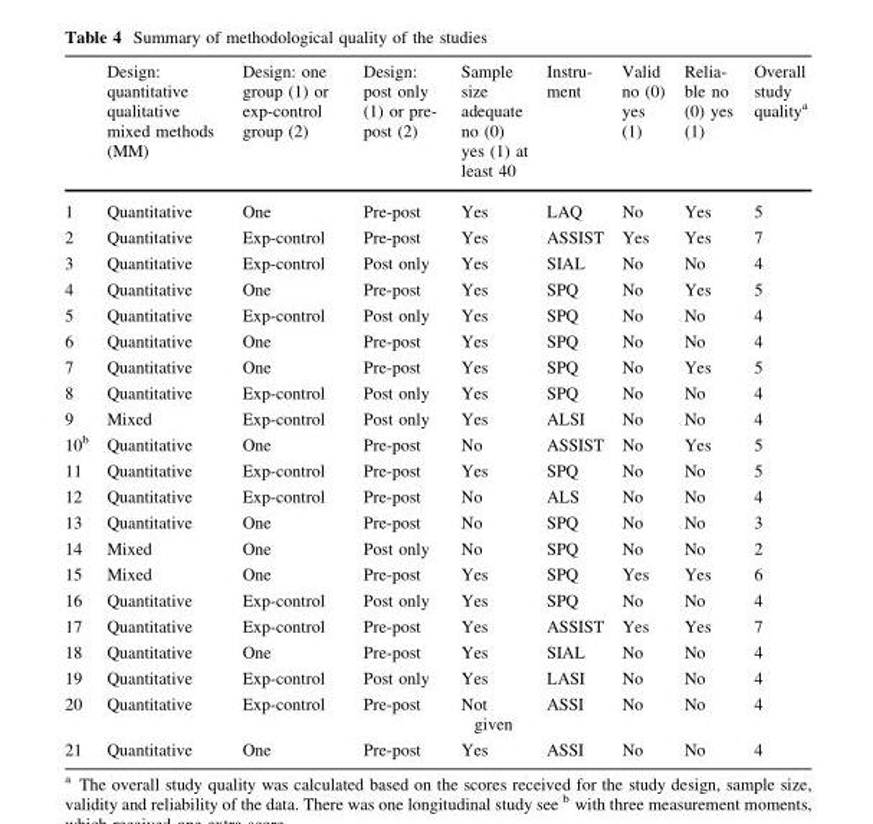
<table><thead><tr><td></td><td>Design: quantitative qualitative mixed methods (MM)</td><td>Design: one group (1) or exp-control group (2)</td><td>Design: post only (1) or pre- post (2)</td><td>Sample size adequate no (0) yes (1) at least 40</td><td>Instru- ment</td><td>Valid no (0) yes (1)</td><td>Relia- ble no (0) yes (1)</td><td>Overall study quality<sup>a</sup></td></tr></thead><tbody><tr><td>1</td><td>Quantitative</td><td>One</td><td>Pre-post</td><td>Yes</td><td>LAQ</td><td>No</td><td>Yes</td><td>5</td></tr><tr><td>2</td><td>Quantitative</td><td>Exp-control</td><td>Pre-post</td><td>Yes</td><td>ASSIST</td><td>Yes</td><td>Yes</td><td>7</td></tr><tr><td>3</td><td>Quantitative</td><td>Exp-control</td><td>Post only</td><td>Yes</td><td>SIAL</td><td>No</td><td>No</td><td>4</td></tr><tr><td>4</td><td>Quantitative</td><td>One</td><td>Pre-post</td><td>Yes</td><td>SPQ</td><td>No</td><td>Yes</td><td>5</td></tr><tr><td>5</td><td>Quantitative</td><td>Exp-control</td><td>Post only</td><td>Yes</td><td>SPQ</td><td>No</td><td>No</td><td>4</td></tr><tr><td>6</td><td>Quantitative</td><td>One</td><td>Pre-post</td><td>Yes</td><td>SPQ</td><td>No</td><td>No</td><td>4</td></tr><tr><td>7</td><td>Quantitative</td><td>One</td><td>Pre-post</td><td>Yes</td><td>SPQ</td><td>No</td><td>Yes</td><td>5</td></tr><tr><td>8</td><td>Quantitative</td><td>Exp-control</td><td>Post only</td><td>Yes</td><td>SPQ</td><td>No</td><td>No</td><td>4</td></tr><tr><td>9</td><td>Mixed</td><td>Exp-control</td><td>Post only</td><td>Yes</td><td>ALSI</td><td>No</td><td>No</td><td>4</td></tr><tr><td>10<sup>b</sup></td><td>Quantitative</td><td>One</td><td>Pre-post</td><td>No</td><td>ASSIST</td><td>No</td><td>Yes</td><td>5</td></tr><tr><td>11</td><td>Quantitative</td><td>Exp-control</td><td>Pre-post</td><td>Yes</td><td>SPQ</td><td>No</td><td>No</td><td>5</td></tr><tr><td>12</td><td>Quantitative</td><td>Exp-control</td><td>Pre-post</td><td>No</td><td>ALS</td><td>No</td><td>No</td><td>4</td></tr><tr><td>13</td><td>Quantitative</td><td>One</td><td>Pre-post</td><td>No</td><td>SPQ</td><td>No</td><td>No</td><td>3</td></tr><tr><td>14</td><td>Mixed</td><td>One</td><td>Post only</td><td>No</td><td>SPQ</td><td>No</td><td>No</td><td>2</td></tr><tr><td>15</td><td>Mixed</td><td>One</td><td>Pre-post</td><td>Yes</td><td>SPQ</td><td>Yes</td><td>Yes</td><td>6</td></tr><tr><td>16</td><td>Quantitative</td><td>Exp-control</td><td>Post only</td><td>Yes</td><td>SPQ</td><td>No</td><td>No</td><td>4</td></tr><tr><td>17</td><td>Quantitative</td><td>Exp-control</td><td>Pre-post</td><td>Yes</td><td>ASSIST</td><td>Yes</td><td>Yes</td><td>7</td></tr><tr><td>18</td><td>Quantitative</td><td>One</td><td>Pre-post</td><td>Yes</td><td>SIAL</td><td>No</td><td>No</td><td>4</td></tr><tr><td>19</td><td>Quantitative</td><td>Exp-control</td><td>Post only</td><td>Yes</td><td>LASI</td><td>No</td><td>No</td><td>4</td></tr><tr><td>20</td><td>Quantitative</td><td>Exp-control</td><td>Pre-post</td><td>Not given</td><td>ASSI</td><td>No</td><td>No</td><td>4</td></tr><tr><td>21</td><td>Quantitative</td><td>One</td><td>Pre-post</td><td>Yes</td><td>ASSI</td><td>No</td><td>No</td><td>4</td></tr></tbody></table>